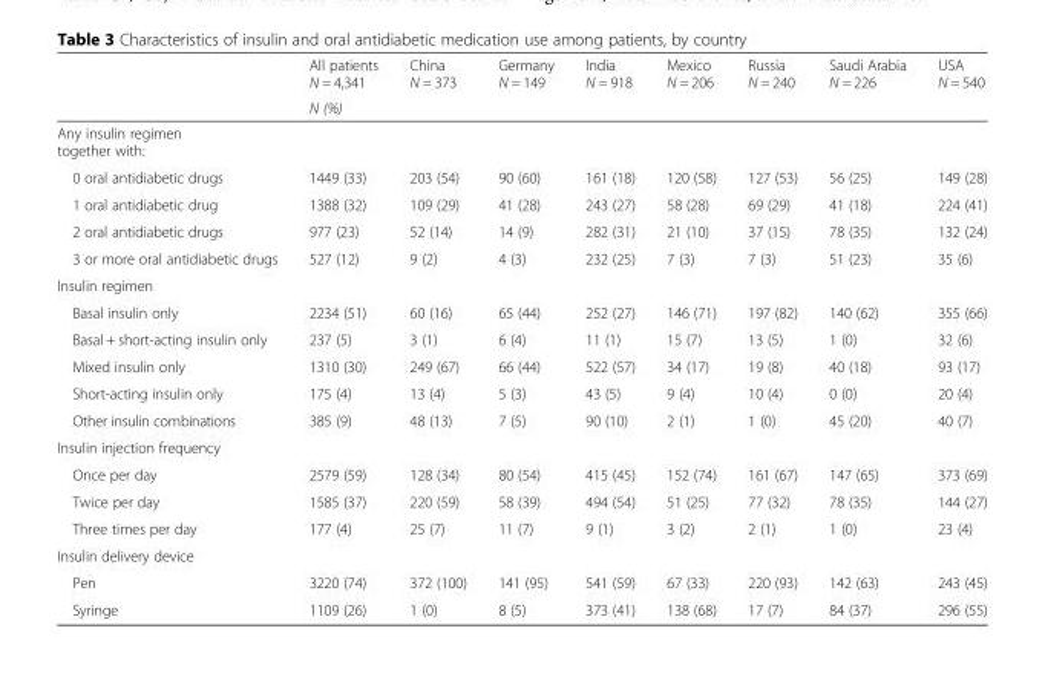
<table><thead><tr><td rowspan="2"></td><td>All patients N = 4,341</td><td>China N = 373</td><td>Germany N = 149</td><td>India N = 918</td><td>Mexico N = 206</td><td>Russia N = 240</td><td>Saudi Arabia N = 226</td><td>USA N = 540</td></tr><tr><td colspan="8">N (%)</td></tr></thead><tbody><tr><td colspan="9">Any insulin regimen together with:</td></tr><tr><td>0 oral antidiabetic drugs</td><td>1449 (33)</td><td>203 (54)</td><td>90 (60)</td><td>161 (18)</td><td>120 (58)</td><td>127 (53)</td><td>56 (25)</td><td>149 (28)</td></tr><tr><td>1 oral antidiabetic drug</td><td>1388 (32)</td><td>109 (29)</td><td>41 (28)</td><td>243 (27)</td><td>58 (28)</td><td>69 (29)</td><td>41 (18)</td><td>224 (41)</td></tr><tr><td>2 oral antidiabetic drugs</td><td>977 (23)</td><td>52 (14)</td><td>14 (9)</td><td>282 (31)</td><td>21 (10)</td><td>37 (15)</td><td>78 (35)</td><td>132 (24)</td></tr><tr><td>3 or more oral antidiabetic drugs</td><td>527 (12)</td><td>9 (2)</td><td>4 (3)</td><td>232 (25)</td><td>7 (3)</td><td>7 (3)</td><td>51 (23)</td><td>35 (6)</td></tr><tr><td colspan="9">Insulin regimen</td></tr><tr><td>Basal insulin only</td><td>2234 (51)</td><td>60 (16)</td><td>65 (44)</td><td>252 (27)</td><td>146 (71)</td><td>197 (82)</td><td>140 (62)</td><td>355 (66)</td></tr><tr><td>Basal + short-acting insulin only</td><td>237 (5)</td><td>3 (1)</td><td>6 (4)</td><td>11 (1)</td><td>15 (7)</td><td>13 (5)</td><td>1 (0)</td><td>32 (6)</td></tr><tr><td>Mixed insulin only</td><td>1310 (30)</td><td>249 (67)</td><td>66 (44)</td><td>522 (57)</td><td>34 (17)</td><td>19 (8)</td><td>40 (18)</td><td>93 (17)</td></tr><tr><td>Short-acting insulin only</td><td>175 (4)</td><td>13 (4)</td><td>5 (3)</td><td>43 (5)</td><td>9 (4)</td><td>10 (4)</td><td>0 (0)</td><td>20 (4)</td></tr><tr><td>Other insulin combinations</td><td>385 (9)</td><td>48 (13)</td><td>7 (5)</td><td>90 (10)</td><td>2 (1)</td><td>1 (0)</td><td>45 (20)</td><td>40 (7)</td></tr><tr><td colspan="9">Insulin injection frequency</td></tr><tr><td>Once per day</td><td>2579 (59)</td><td>128 (34)</td><td>80 (54)</td><td>415 (45)</td><td>152 (74)</td><td>161 (67)</td><td>147 (65)</td><td>373 (69)</td></tr><tr><td>Twice per day</td><td>1585 (37)</td><td>220 (59)</td><td>58 (39)</td><td>494 (54)</td><td>51 (25)</td><td>77 (32)</td><td>78 (35)</td><td>144 (27)</td></tr><tr><td>Three times per day</td><td>177 (4)</td><td>25 (7)</td><td>11 (7)</td><td>9 (1)</td><td>3 (2)</td><td>2 (1)</td><td>1 (0)</td><td>23 (4)</td></tr><tr><td colspan="9">Insulin delivery device</td></tr><tr><td>Pen</td><td>3220 (74)</td><td>372 (100)</td><td>141 (95)</td><td>541 (59)</td><td>67 (33)</td><td>220 (93)</td><td>142 (63)</td><td>243 (45)</td></tr><tr><td>Syringe</td><td>1109 (26)</td><td>1 (0)</td><td>8 (5)</td><td>373 (41)</td><td>138 (68)</td><td>17 (7)</td><td>84 (37)</td><td>296 (55)</td></tr></tbody></table>